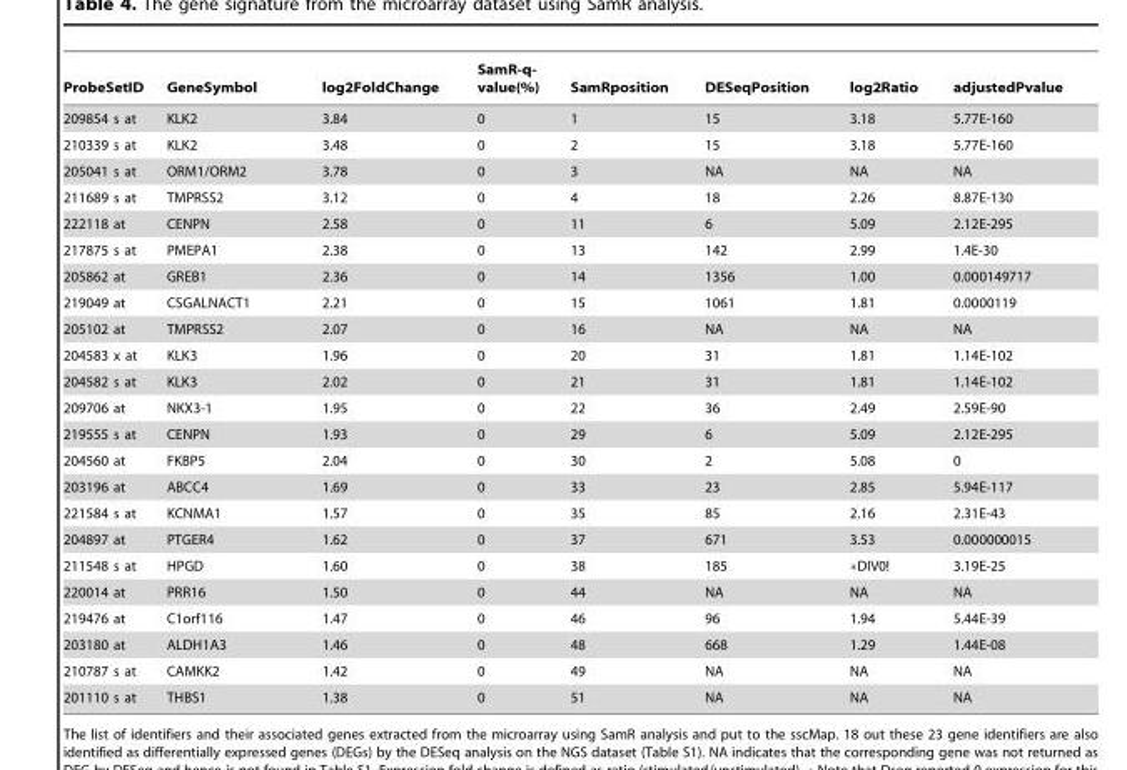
<table><thead><tr><td>ProbeSetID</td><td>GeneSymbol</td><td>log2FoldChange</td><td>SamR-q- value(%)</td><td>SamRposition</td><td>DESeqPosition</td><td>log2Ratio</td><td>adjustedPvalue</td></tr></thead><tbody><tr><td>209854 s at</td><td>KLK2</td><td>3.84</td><td>0</td><td>1</td><td>15</td><td>3.18</td><td>5.77E-160</td></tr><tr><td>210339 s at</td><td>KLK2</td><td>3.48</td><td>0</td><td>2</td><td>15</td><td>3.18</td><td>5.77E-160</td></tr><tr><td>205041 s at</td><td>ORM1/ORM2</td><td>3.78</td><td>0</td><td>3</td><td>NA</td><td>NA</td><td>NA</td></tr><tr><td>211689 s at</td><td>TMPRSS2</td><td>3.12</td><td>0</td><td>4</td><td>18</td><td>2.26</td><td>8.87E-130</td></tr><tr><td>222118 at</td><td>CENPN</td><td>2.58</td><td>0</td><td>11</td><td>6</td><td>5.09</td><td>2.12E-295</td></tr><tr><td>217875 s at</td><td>PMEPA1</td><td>2.38</td><td>0</td><td>13</td><td>142</td><td>2.99</td><td>1.4E-30</td></tr><tr><td>205862 at</td><td>GREB1</td><td>2.36</td><td>0</td><td>14</td><td>1356</td><td>1.00</td><td>0.000149717</td></tr><tr><td>219049 at</td><td>CSGALNACT1</td><td>2.21</td><td>0</td><td>15</td><td>1061</td><td>1.81</td><td>0.0000119</td></tr><tr><td>205102 at</td><td>TMPRSS2</td><td>2.07</td><td>0</td><td>16</td><td>NA</td><td>NA</td><td>NA</td></tr><tr><td>204583 x at</td><td>KLK3</td><td>1.96</td><td>0</td><td>20</td><td>31</td><td>1.81</td><td>1.14E-102</td></tr><tr><td>204582 s at</td><td>KLK3</td><td>2.02</td><td>0</td><td>21</td><td>31</td><td>1.81</td><td>1.14E-102</td></tr><tr><td>209706 at</td><td>NKX3-1</td><td>1.95</td><td>0</td><td>22</td><td>36</td><td>2.49</td><td>2.59E-90</td></tr><tr><td>219555 s at</td><td>CENPN</td><td>1.93</td><td>0</td><td>29</td><td>6</td><td>5.09</td><td>2.12E-295</td></tr><tr><td>204560 at</td><td>FKBP5</td><td>2.04</td><td>0</td><td>30</td><td>2</td><td>5.08</td><td>0</td></tr><tr><td>203196 at</td><td>ABCC4</td><td>1.69</td><td>0</td><td>33</td><td>23</td><td>2.85</td><td>5.94E-117</td></tr><tr><td>221584 s at</td><td>KCNMA1</td><td>1.57</td><td>0</td><td>35</td><td>85</td><td>2.16</td><td>2.31E-43</td></tr><tr><td>204897 at</td><td>PTGER4</td><td>1.62</td><td>0</td><td>37</td><td>671</td><td>3.53</td><td>0.000000015</td></tr><tr><td>211548 s at</td><td>HPGD</td><td>1.60</td><td>0</td><td>38</td><td>185</td><td>�DIV0!</td><td>3.19E-25</td></tr><tr><td>220014 at</td><td>PRR16</td><td>1.50</td><td>0</td><td>44</td><td>NA</td><td>NA</td><td>NA</td></tr><tr><td>219476 at</td><td>C1orf116</td><td>1.47</td><td>0</td><td>46</td><td>96</td><td>1.94</td><td>5.44E-39</td></tr><tr><td>203180 at</td><td>ALDH1A3</td><td>1.46</td><td>0</td><td>48</td><td>668</td><td>1.29</td><td>1.44E-08</td></tr><tr><td>210787 s at</td><td>CAMKK2</td><td>1.42</td><td>0</td><td>49</td><td>NA</td><td>NA</td><td>NA</td></tr><tr><td>201110 s at</td><td>THBS1</td><td>1.38</td><td>0</td><td>51</td><td>NA</td><td>NA</td><td>NA</td></tr></tbody></table>